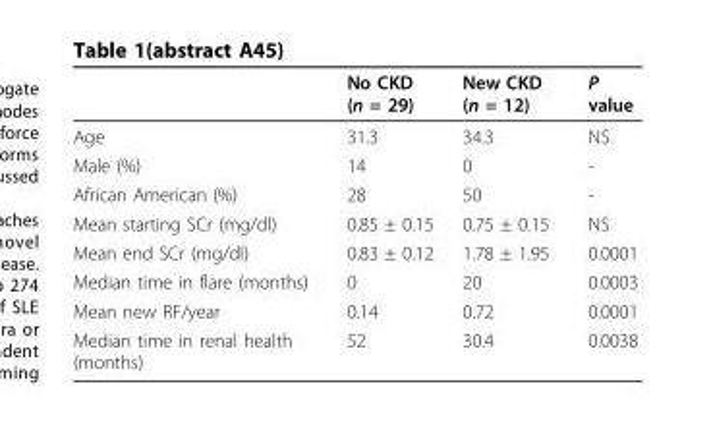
<table><thead><tr><td></td><td>No CKD (n = 29)</td><td>New CKD (n = 12)</td><td>P value</td></tr></thead><tbody><tr><td>Age</td><td>31.3</td><td>34.3</td><td>NS</td></tr><tr><td>Male (%)</td><td>14</td><td>0</td><td>-</td></tr><tr><td>African American (%)</td><td>28</td><td>50</td><td>-</td></tr><tr><td>Mean starting SCr (mg/dl)</td><td>0.85 ± 0.15</td><td>0.75 ± 0.15</td><td>NS</td></tr><tr><td>Mean end SCr (mg/dl)</td><td>0.83 ± 0.12</td><td>1.78 ± 1.95</td><td>0.0001</td></tr><tr><td>Median time in flare (months)</td><td>0</td><td>20</td><td>0.0003</td></tr><tr><td>Mean new RF/year</td><td>0.14</td><td>0.72</td><td>0.0001</td></tr><tr><td>Median time in renal health (months)</td><td>52</td><td>30.4</td><td>0.0038</td></tr></tbody></table>